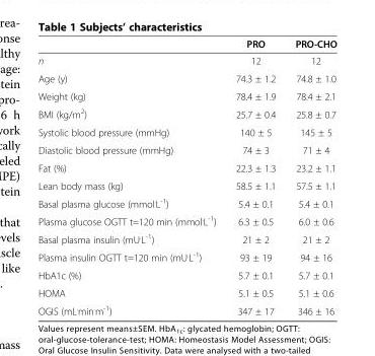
<table><thead><tr><td></td><td>PRO</td><td>PRO-CHO</td></tr></thead><tbody><tr><td>n</td><td>12</td><td>12</td></tr><tr><td>Age (y)</td><td>74.3 ± 1.2</td><td>74.8 ± 1.0</td></tr><tr><td>Weight (kg)</td><td>78.4 ± 1.9</td><td>78.4 ± 2.1</td></tr><tr><td>BMI (kg/m<sup>2</sup>)</td><td>25.7 ± 0.4</td><td>25.8 ± 0.7</td></tr><tr><td>Systolic blood pressure (mmHg)</td><td>140 ± 5</td><td>145 ± 5</td></tr><tr><td>Diastolic blood pressure (mmHg)</td><td>74 ± 3</td><td>71 ± 4</td></tr><tr><td>Fat (%)</td><td>22.3 ± 1.3</td><td>23.2 ± 1.1</td></tr><tr><td>Lean body mass (kg)</td><td>58.5 ± 1.1</td><td>57.5 ± 1.1</td></tr><tr><td>Basal plasma glucose (mmol<sup>.</sup>L<sup>-1</sup>)</td><td>5.4 ± 0.1</td><td>5.4 ± 0.1</td></tr><tr><td>Plasma glucose OGTT t=120 min (mmol<sup>.</sup>L<sup>-1</sup>)</td><td>6.3 ± 0.5</td><td>6.0 ± 0.6</td></tr><tr><td>Basal plasma insulin (mU<sup>.</sup>L<sup>-1</sup>)</td><td>21 ± 2</td><td>21 ± 2</td></tr><tr><td>Plasma insulin OGTT t=120 min (mU<sup>.</sup>L<sup>-1</sup>)</td><td>93 ± 19</td><td>94 ± 16</td></tr><tr><td>HbA1c (%)</td><td>5.7 ± 0.1</td><td>5.7 ± 0.1</td></tr><tr><td>HOMA</td><td>5.1 ± 0.5</td><td>5.1 ± 0.6</td></tr><tr><td>OGIS (mL<sup>.</sup>min<sup>.</sup>m<sup>-1</sup>)</td><td>347 ± 17</td><td>346 ± 16</td></tr></tbody></table>